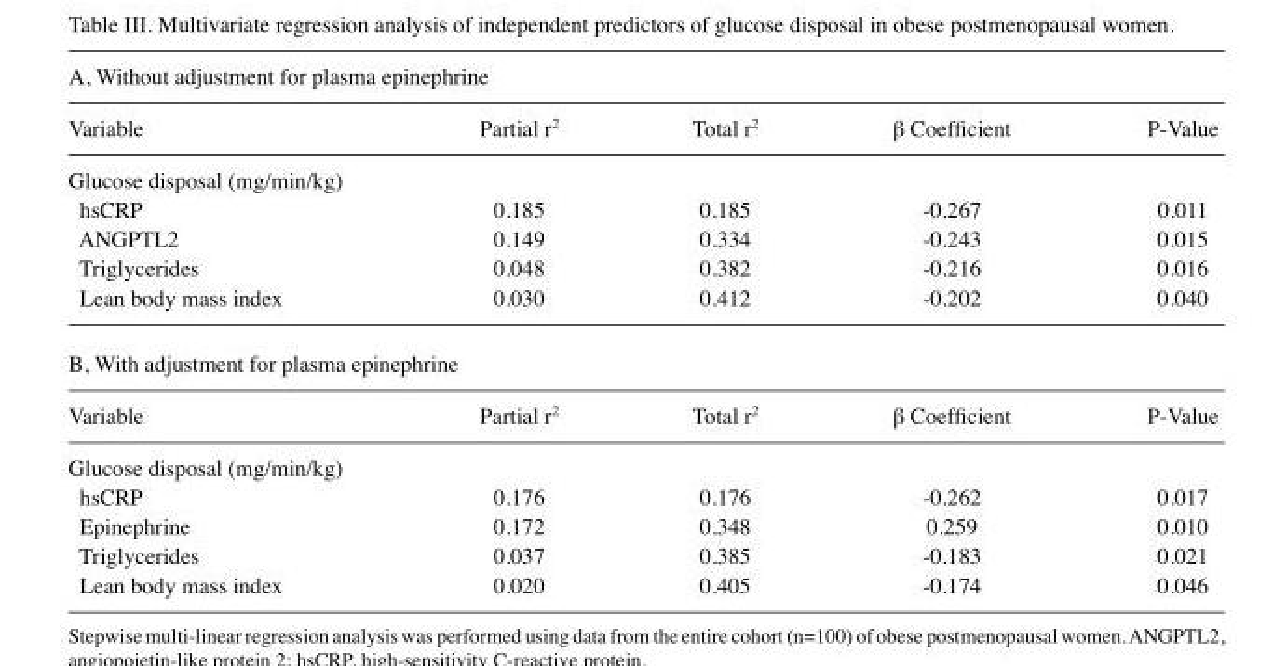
<table><tbody><tr><td colspan="5">A, Without adjustment for plasma epinephrine</td></tr><tr><td>Variable</td><td>Partial r<sup>2</sup></td><td>Total r<sup>2</sup></td><td>β Coefficient</td><td>P-Value</td></tr><tr><td colspan="5">Glucose disposal (mg/min/kg)</td></tr><tr><td>hsCRP</td><td>0.185</td><td>0.185</td><td>-0.267</td><td>0.011</td></tr><tr><td>ANGPTL2</td><td>0.149</td><td>0.334</td><td>-0.243</td><td>0.015</td></tr><tr><td>Triglycerides</td><td>0.048</td><td>0.382</td><td>-0.216</td><td>0.016</td></tr><tr><td>Lean body mass index</td><td>0.030</td><td>0.412</td><td>-0.202</td><td>0.040</td></tr><tr><td colspan="5">B, With adjustment for plasma epinephrine</td></tr><tr><td>Variable</td><td>Partial r<sup>2</sup></td><td>Total r<sup>2</sup></td><td>β Coefficient</td><td>P-Value</td></tr><tr><td colspan="5">Glucose disposal (mg/min/kg)</td></tr><tr><td>hsCRP</td><td>0.176</td><td>0.176</td><td>-0.262</td><td>0.017</td></tr><tr><td>Epinephrine</td><td>0.172</td><td>0.348</td><td>0.259</td><td>0.010</td></tr><tr><td>Triglycerides</td><td>0.037</td><td>0.385</td><td>-0.183</td><td>0.021</td></tr><tr><td>Lean body mass index</td><td>0.020</td><td>0.405</td><td>-0.174</td><td>0.046</td></tr></tbody></table>